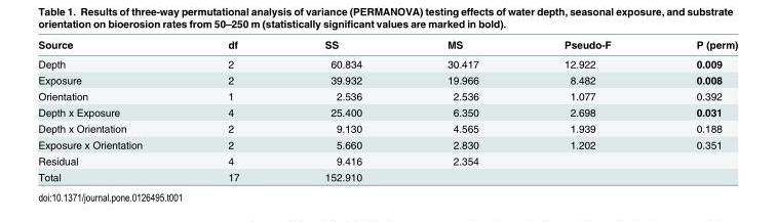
<table><thead><tr><td>Source</td><td>df</td><td>SS</td><td>MS</td><td>Pseudo-F</td><td>P (perm)</td></tr></thead><tbody><tr><td>Depth</td><td>2</td><td>60.834</td><td>30.417</td><td>12.922</td><td>0.009</td></tr><tr><td>Exposure</td><td>2</td><td>39.932</td><td>19.966</td><td>8.482</td><td>0.008</td></tr><tr><td>Orientation</td><td>1</td><td>2.536</td><td>2.536</td><td>1.077</td><td>0.392</td></tr><tr><td>Depth x Exposure</td><td>4</td><td>25.400</td><td>6.350</td><td>2.698</td><td>0.031</td></tr><tr><td>Depth x Orientation</td><td>2</td><td>9.130</td><td>4.565</td><td>1.939</td><td>0.188</td></tr><tr><td>Exposure x Orientation</td><td>2</td><td>5.660</td><td>2.830</td><td>1.202</td><td>0.351</td></tr><tr><td>Residual</td><td>4</td><td>9.416</td><td>2.354</td><td></td><td></td></tr><tr><td>Total</td><td>17</td><td>152.910</td><td></td><td></td><td></td></tr></tbody></table>